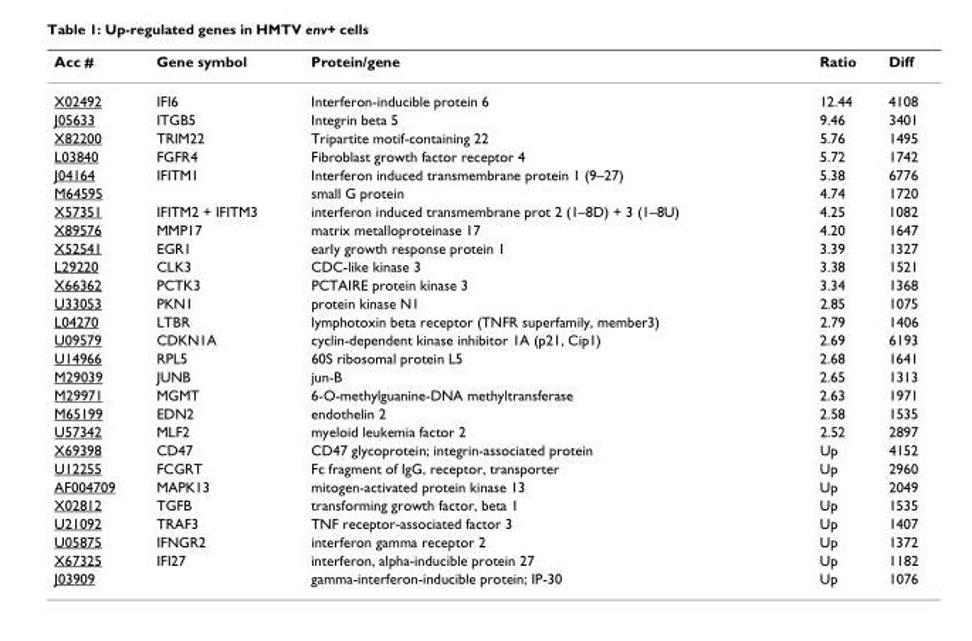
<table><thead><tr><td>Acc #</td><td>Gene symbol</td><td>Protein/gene</td><td>Ratio</td><td>Diff</td></tr></thead><tbody><tr><td>X02492</td><td>IFI6</td><td>Interferon-inducible protein 6</td><td>12.44</td><td>4108</td></tr><tr><td>J05633</td><td>ITGB5</td><td>Integrin beta 5</td><td>9.46</td><td>3401</td></tr><tr><td>X82200</td><td>TRIM22</td><td>Tripartite motif-containing 22</td><td>5.76</td><td>1495</td></tr><tr><td>L03840</td><td>FGFR4</td><td>Fibroblast growth factor receptor 4</td><td>5.72</td><td>1742</td></tr><tr><td>J04164</td><td>IFITM1</td><td>Interferon induced transmembrane protein 1 (9–27)</td><td>5.38</td><td>6776</td></tr><tr><td>M64595</td><td></td><td>small G protein</td><td>4.74</td><td>1720</td></tr><tr><td>X57351</td><td>IFITM2 + IFITM3</td><td>interferon induced transmembrane prot 2 (1–8D) + 3 (1–8U)</td><td>4.25</td><td>1082</td></tr><tr><td>X89576</td><td>MMP17</td><td>matrix metalloproteinase 17</td><td>4.20</td><td>1647</td></tr><tr><td>X52541</td><td>EGR1</td><td>early growth response protein 1</td><td>3.39</td><td>1327</td></tr><tr><td>L29220</td><td>CLK3</td><td>CDC-like kinase 3</td><td>3.38</td><td>1521</td></tr><tr><td>X66362</td><td>PCTK3</td><td>PCTAIRE protein kinase 3</td><td>3.34</td><td>1368</td></tr><tr><td>U33053</td><td>PKN1</td><td>protein kinase N1</td><td>2.85</td><td>1075</td></tr><tr><td>L04270</td><td>LTBR</td><td>lymphotoxin beta receptor (TNFR superfamily, member3)</td><td>2.79</td><td>1406</td></tr><tr><td>U09579</td><td>CDKN1A</td><td>cyclin-dependent kinase inhibitor 1A (p21, Cip1)</td><td>2.69</td><td>6193</td></tr><tr><td>U14966</td><td>RPL5</td><td>60S ribosomal protein L5</td><td>2.68</td><td>1641</td></tr><tr><td>M29039</td><td>JUNB</td><td>jun-B</td><td>2.65</td><td>1313</td></tr><tr><td>M29971</td><td>MGMT</td><td>6-O-methylguanine-DNA methyltransferase</td><td>2.63</td><td>1971</td></tr><tr><td>M65199</td><td>EDN2</td><td>endothelin 2</td><td>2.58</td><td>1535</td></tr><tr><td>U57342</td><td>MLF2</td><td>myeloid leukemia factor 2</td><td>2.52</td><td>2897</td></tr><tr><td>X69398</td><td>CD47</td><td>CD47 glycoprotein; integrin-associated protein</td><td>Up</td><td>4152</td></tr><tr><td>U12255</td><td>FCGRT</td><td>Fc fragment of IgG, receptor, transporter</td><td>Up</td><td>2960</td></tr><tr><td>AF004709</td><td>MAPK13</td><td>mitogen-activated protein kinase 13</td><td>Up</td><td>2049</td></tr><tr><td>X02812</td><td>TGFB</td><td>transforming growth factor, beta 1</td><td>Up</td><td>1535</td></tr><tr><td>U21092</td><td>TRAF3</td><td>TNF receptor-associated factor 3</td><td>Up</td><td>1407</td></tr><tr><td>U05875</td><td>IFNGR2</td><td>interferon gamma receptor 2</td><td>Up</td><td>1372</td></tr><tr><td>X67325</td><td>IFI27</td><td>interferon, alpha-inducible protein 27</td><td>Up</td><td>1182</td></tr><tr><td>J03909</td><td></td><td>gamma-interferon-inducible protein; IP-30</td><td>Up</td><td>1076</td></tr></tbody></table>